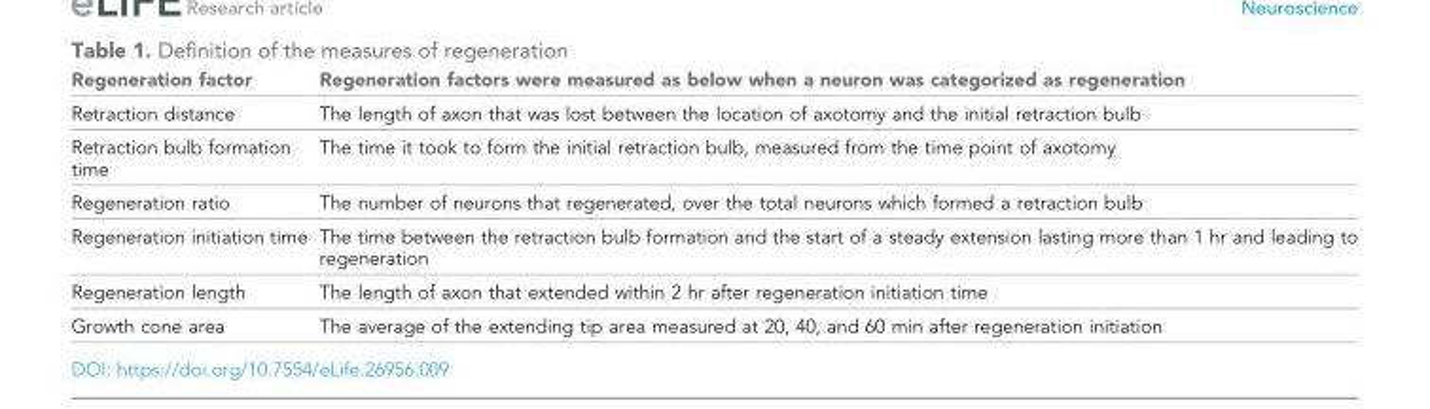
<table><thead><tr><td>Regeneration factor</td><td>Regeneration factors were measured as below when a neuron was categorized as regeneration</td></tr></thead><tbody><tr><td>Retraction distance</td><td>The length of axon that was lost between the location of axotomy and the initial retraction bulb</td></tr><tr><td>Retraction bulb formation time</td><td>The time it took to form the initial retraction bulb, measured from the time point of axotomy</td></tr><tr><td>Regeneration ratio</td><td>The number of neurons that regenerated, over the total neurons which formed a retraction bulb</td></tr><tr><td>Regeneration initiation time</td><td>The time between the retraction bulb formation and the start of a steady extension lasting more than 1 hr and leading to regeneration</td></tr><tr><td>Regeneration length</td><td>The length of axon that extended within 2 hr after regeneration initiation time</td></tr><tr><td>Growth cone area</td><td>The average of the extending tip area measured at 20, 40, and 60 min after regeneration initiation</td></tr></tbody></table>